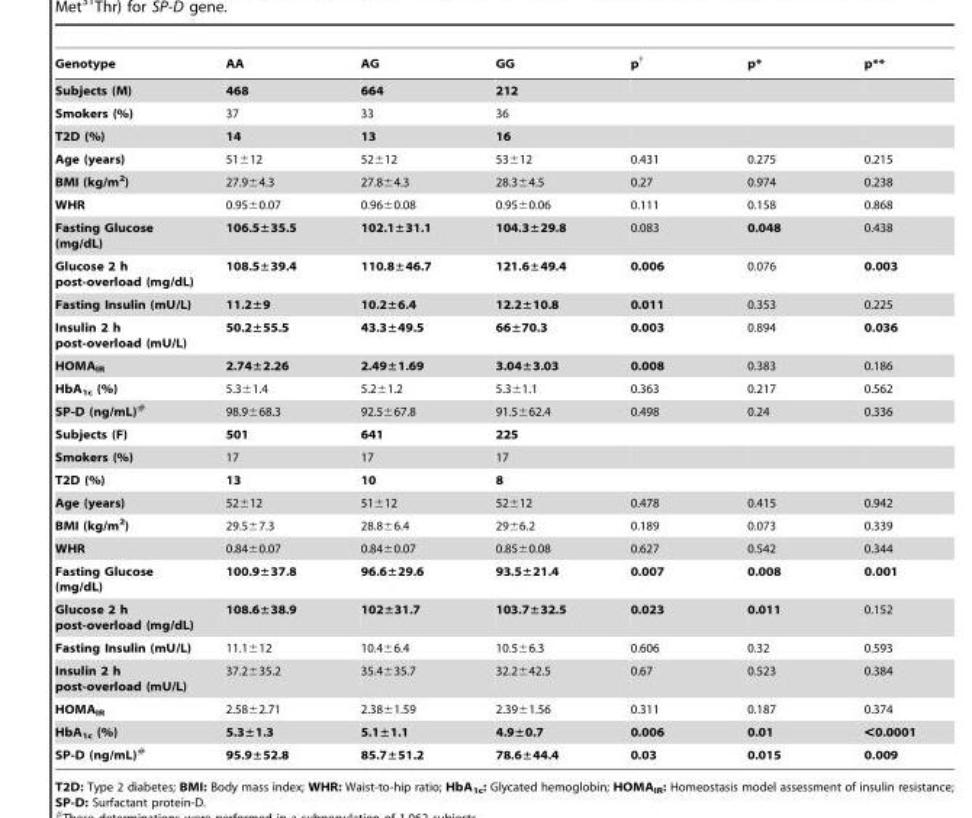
<table><thead><tr><td>Genotype</td><td>AA</td><td>AG</td><td>GG</td><td>p†</td><td>p*</td><td>p**</td></tr></thead><tbody><tr><td>Subjects (M)</td><td>468</td><td>664</td><td>212</td><td></td><td></td><td></td></tr><tr><td>Smokers (%)</td><td>37</td><td>33</td><td>36</td><td></td><td></td><td></td></tr><tr><td>T2D (%)</td><td>14</td><td>13</td><td>16</td><td></td><td></td><td></td></tr><tr><td>Age (years)</td><td>51±12</td><td>52±12</td><td>53±12</td><td>0.431</td><td>0.275</td><td>0.215</td></tr><tr><td>BMI (kg/m<sup>2</sup>)</td><td>27.9±4.3</td><td>27.8±4.3</td><td>28.3±4.5</td><td>0.27</td><td>0.974</td><td>0.238</td></tr><tr><td>WHR</td><td>0.95±0.07</td><td>0.96±0.08</td><td>0.95±0.06</td><td>0.111</td><td>0.158</td><td>0.868</td></tr><tr><td>Fasting Glucose (mg/dL)</td><td>106.5±35.5</td><td>102.1±31.1</td><td>104.3±29.8</td><td>0.083</td><td>0.048</td><td>0.438</td></tr><tr><td>Glucose 2 h post-overload (mg/dL)</td><td>108.5±39.4</td><td>110.8±46.7</td><td>121.6±49.4</td><td>0.006</td><td>0.076</td><td>0.003</td></tr><tr><td>Fasting Insulin (mU/L)</td><td>11.2±9</td><td>10.2±6.4</td><td>12.2±10.8</td><td>0.011</td><td>0.353</td><td>0.225</td></tr><tr><td>Insulin 2 h post-overload (mU/L)</td><td>50.2±55.5</td><td>43.3±49.5</td><td>66±70.3</td><td>0.003</td><td>0.894</td><td>0.036</td></tr><tr><td>HOMA<sub>IR</sub></td><td>2.74±2.26</td><td>2.49±1.69</td><td>3.04±3.03</td><td>0.008</td><td>0.383</td><td>0.186</td></tr><tr><td>HbA<sub>1c</sub> (%)</td><td>5.3±1.4</td><td>5.2±1.2</td><td>5.3±1.1</td><td>0.363</td><td>0.217</td><td>0.562</td></tr><tr><td>SP-D (ng/mL)#</td><td>98.9±68.3</td><td>92.5±67.8</td><td>91.5±62.4</td><td>0.498</td><td>0.24</td><td>0.336</td></tr><tr><td>Subjects (F)</td><td>501</td><td>641</td><td>225</td><td></td><td></td><td></td></tr><tr><td>Smokers (%)</td><td>17</td><td>17</td><td>17</td><td></td><td></td><td></td></tr><tr><td>T2D (%)</td><td>13</td><td>10</td><td>8</td><td></td><td></td><td></td></tr><tr><td>Age (years)</td><td>52±12</td><td>51±12</td><td>52±12</td><td>0.478</td><td>0.415</td><td>0.942</td></tr><tr><td>BMI (kg/m<sup>2</sup>)</td><td>29.5±7.3</td><td>28.8±6.4</td><td>29±6.2</td><td>0.189</td><td>0.073</td><td>0.339</td></tr><tr><td>WHR</td><td>0.84±0.07</td><td>0.84±0.07</td><td>0.85±0.08</td><td>0.627</td><td>0.542</td><td>0.344</td></tr><tr><td>Fasting Glucose (mg/dL)</td><td>100.9±37.8</td><td>96.6±29.6</td><td>93.5±21.4</td><td>0.007</td><td>0.008</td><td>0.001</td></tr><tr><td>Glucose 2 h post-overload (mg/dL)</td><td>108.6±38.9</td><td>102±31.7</td><td>103.7±32.5</td><td>0.023</td><td>0.011</td><td>0.152</td></tr><tr><td>Fasting Insulin (mU/L)</td><td>11.1±12</td><td>10.4±6.4</td><td>10.5±6.3</td><td>0.606</td><td>0.32</td><td>0.593</td></tr><tr><td>Insulin 2 h post-overload (mU/L)</td><td>37.2±35.2</td><td>35.4±35.7</td><td>32.2±42.5</td><td>0.67</td><td>0.523</td><td>0.384</td></tr><tr><td>HOMA<sub>IR</sub></td><td>2.58±2.71</td><td>2.38±1.59</td><td>2.39±1.56</td><td>0.311</td><td>0.187</td><td>0.374</td></tr><tr><td>HbA<sub>1c</sub> (%)</td><td>5.3±1.3</td><td>5.1±1.1</td><td>4.9±0.7</td><td>0.006</td><td>0.01</td><td>&lt;0.0001</td></tr><tr><td>SP-D (ng/mL)#</td><td>95.9±52.8</td><td>85.7±51.2</td><td>78.6±44.4</td><td>0.03</td><td>0.015</td><td>0.009</td></tr></tbody></table>